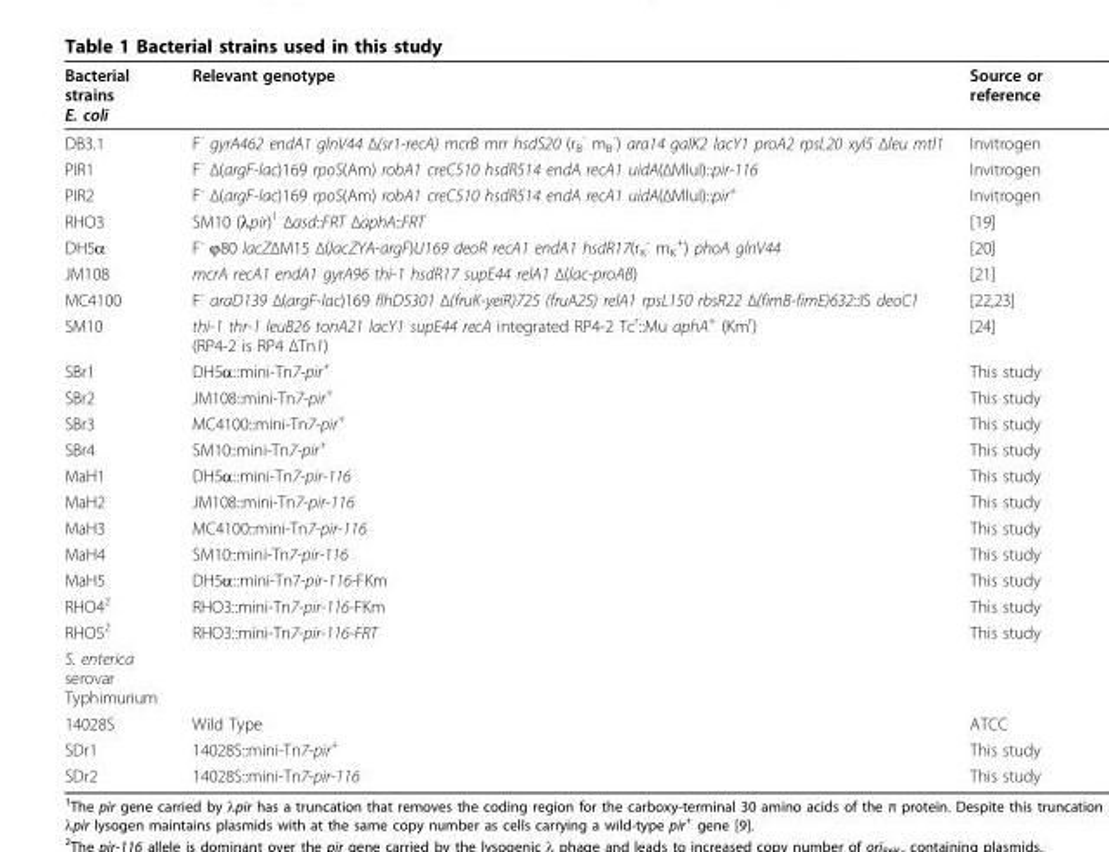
<table><thead><tr><td>Bacterial strains E. coli</td><td>Relevant genotype</td><td>Source or reference</td></tr></thead><tbody><tr><td>DB3.1</td><td>F<sup>-</sup> gyrA462 endA1 glnV44 Δ(sr1-recA) mcrB mrr hsdS20 (r<sub>B</sub> <sup>-</sup> m<sub>B</sub> <sup>-</sup>) ara14 galK2 lacY1 proA2 rpsL20 xyl5 Δleu mtl1</td><td>Invitrogen</td></tr><tr><td>PIR1</td><td>F<sup>-</sup> Δ(argF-lac)169 rpoS(Am) robA1 creC510 hsdR514 endA recA1 uidA(ΔMluI)::pir-116</td><td>Invitrogen</td></tr><tr><td>PIR2</td><td>F<sup>-</sup> Δ(argF-lac)169 rpoS(Am) robA1 creC510 hsdR514 endA recA1 uidA(ΔMluI)::pir<sup>+</sup></td><td>Invitrogen</td></tr><tr><td>RHO3</td><td>SM10 (λpir)<sup>1</sup> Δasd::FRT ΔaphA::FRT</td><td>[19]</td></tr><tr><td>DH5α</td><td>F<sup>-</sup> ϕ80 lacZΔM15 Δ(lacZYA-argF)U169 deoR recA1 endA1 hsdR17(r<sub>K</sub> <sup>-</sup> m<sub>K</sub> <sup>+</sup>) phoA glnV44</td><td>[20]</td></tr><tr><td>JM108</td><td>mcrA recA1 endA1 gyrA96 thi-1 hsdR17 supE44 relA1 Δ(lac-proAB)</td><td>[21]</td></tr><tr><td>MC4100</td><td>F<sup>-</sup> araD139 Δ(argF-lac)169 flhD5301 Δ(fruK-yeiR)725 (fruA25) relA1 rpsL150 rbsR22 Δ(fimB-fimE)632::IS deoC1</td><td>[22,23]</td></tr><tr><td>SM10</td><td>thi-1 thr-1 leuB26 tonA21 lacY1 supE44 recA integrated RP4-2 Tc<sup>r</sup>::Mu aphA<sup>+</sup> (Km<sup>r</sup>) (RP4-2 is RP4 ΔTn1)</td><td>[24]</td></tr><tr><td>SBr1</td><td>DH5α::mini-Tn7-pir<sup>+</sup></td><td>This study</td></tr><tr><td>SBr2</td><td>JM108::mini-Tn7-pir<sup>+</sup></td><td>This study</td></tr><tr><td>SBr3</td><td>MC4100::mini-Tn7-pir<sup>+</sup></td><td>This study</td></tr><tr><td>SBr4</td><td>SM10::mini-Tn7-pir<sup>+</sup></td><td>This study</td></tr><tr><td>MaH1</td><td>DH5α::mini-Tn7-pir-116</td><td>This study</td></tr><tr><td>MaH2</td><td>JM108::mini-Tn7-pir-116</td><td>This study</td></tr><tr><td>MaH3</td><td>MC4100::mini-Tn7-pir-116</td><td>This study</td></tr><tr><td>MaH4</td><td>SM10::mini-Tn7-pir-116</td><td>This study</td></tr><tr><td>MaH5</td><td>DH5α::mini-Tn7-pir-116-FKm</td><td>This study</td></tr><tr><td>RHO4<sup>2</sup></td><td>RHO3::mini-Tn7-pir-116-FKm</td><td>This study</td></tr><tr><td>RHO5<sup>2</sup></td><td>RHO3::mini-Tn7-pir-116-FRT</td><td>This study</td></tr><tr><td colspan="3">S. enterica serovar Typhimurium</td></tr><tr><td>14028S</td><td>Wild Type</td><td>ATCC</td></tr><tr><td>SDr1</td><td>14028S::mini-Tn7-pir<sup>+</sup></td><td>This study</td></tr><tr><td>SDr2</td><td>14028S::mini-Tn7-pir-116</td><td>This study</td></tr></tbody></table>